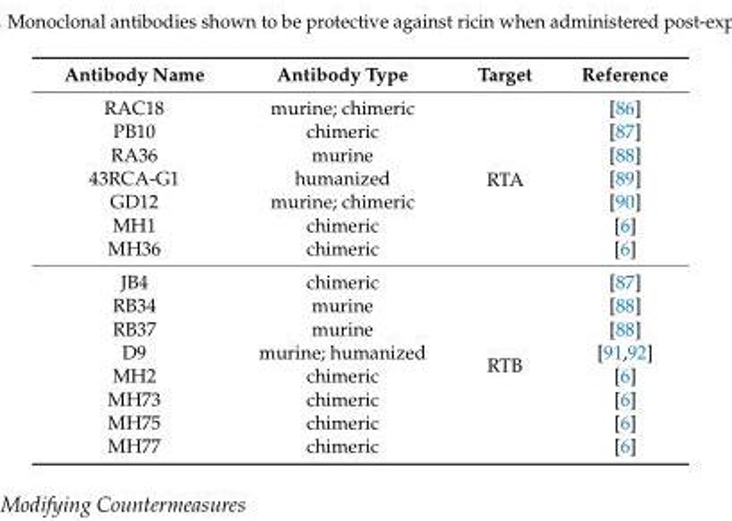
<table><thead><tr><td>Antibody Name</td><td>Antibody Type</td><td>Target</td><td>Reference</td></tr></thead><tbody><tr><td>RAC18</td><td>murine; chimeric</td><td rowspan="7">RTA</td><td>[86]</td></tr><tr><td>PB10</td><td>chimeric</td><td>[87]</td></tr><tr><td>RA36</td><td>murine</td><td>[88]</td></tr><tr><td>43RCA-G1</td><td>humanized</td><td>[89]</td></tr><tr><td>GD12</td><td>murine; chimeric</td><td>[90]</td></tr><tr><td>MH1</td><td>chimeric</td><td>[6]</td></tr><tr><td>MH36</td><td>chimeric</td><td>[6]</td></tr><tr><td>JB4</td><td>chimeric</td><td rowspan="8">RTB</td><td>[87]</td></tr><tr><td>RB34</td><td>murine</td><td>[88]</td></tr><tr><td>RB37</td><td>murine</td><td>[88]</td></tr><tr><td>D9</td><td>murine; humanized</td><td>[91,92]</td></tr><tr><td>MH2</td><td>chimeric</td><td>[6]</td></tr><tr><td>MH73</td><td>chimeric</td><td>[6]</td></tr><tr><td>MH75</td><td>chimeric</td><td>[6]</td></tr><tr><td>MH77</td><td>chimeric</td><td>[6]</td></tr></tbody></table>